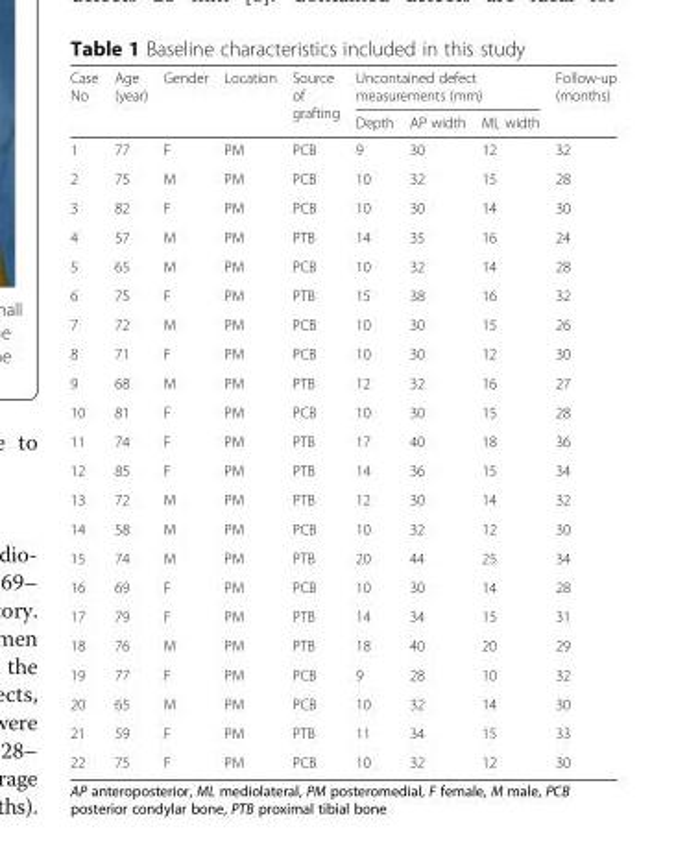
<table><thead><tr><td rowspan="2">Case No</td><td rowspan="2">Age (year)</td><td rowspan="2">Gender</td><td rowspan="2">Location</td><td rowspan="2">Source of grafting</td><td colspan="3">Uncontained defect measurements (mm)</td><td rowspan="2">Follow-up (months)</td></tr><tr><td>Depth</td><td>AP width</td><td>ML width</td></tr></thead><tbody><tr><td>1</td><td>77</td><td>F</td><td>PM</td><td>PCB</td><td>9</td><td>30</td><td>12</td><td>32</td></tr><tr><td>2</td><td>75</td><td>M</td><td>PM</td><td>PCB</td><td>10</td><td>32</td><td>15</td><td>28</td></tr><tr><td>3</td><td>82</td><td>F</td><td>PM</td><td>PCB</td><td>10</td><td>30</td><td>14</td><td>30</td></tr><tr><td>4</td><td>57</td><td>M</td><td>PM</td><td>PTB</td><td>14</td><td>35</td><td>16</td><td>24</td></tr><tr><td>5</td><td>65</td><td>M</td><td>PM</td><td>PCB</td><td>10</td><td>32</td><td>14</td><td>28</td></tr><tr><td>6</td><td>75</td><td>F</td><td>PM</td><td>PTB</td><td>15</td><td>38</td><td>16</td><td>32</td></tr><tr><td>7</td><td>72</td><td>M</td><td>PM</td><td>PCB</td><td>10</td><td>30</td><td>15</td><td>26</td></tr><tr><td>8</td><td>71</td><td>F</td><td>PM</td><td>PCB</td><td>10</td><td>30</td><td>12</td><td>30</td></tr><tr><td>9</td><td>68</td><td>M</td><td>PM</td><td>PTB</td><td>12</td><td>32</td><td>16</td><td>27</td></tr><tr><td>10</td><td>81</td><td>F</td><td>PM</td><td>PCB</td><td>10</td><td>30</td><td>15</td><td>28</td></tr><tr><td>11</td><td>74</td><td>F</td><td>PM</td><td>PTB</td><td>17</td><td>40</td><td>18</td><td>36</td></tr><tr><td>12</td><td>85</td><td>F</td><td>PM</td><td>PTB</td><td>14</td><td>36</td><td>15</td><td>34</td></tr><tr><td>13</td><td>72</td><td>M</td><td>PM</td><td>PTB</td><td>12</td><td>30</td><td>14</td><td>32</td></tr><tr><td>14</td><td>58</td><td>M</td><td>PM</td><td>PCB</td><td>10</td><td>32</td><td>12</td><td>30</td></tr><tr><td>15</td><td>74</td><td>M</td><td>PM</td><td>PTB</td><td>20</td><td>44</td><td>25</td><td>34</td></tr><tr><td>16</td><td>69</td><td>F</td><td>PM</td><td>PCB</td><td>10</td><td>30</td><td>14</td><td>28</td></tr><tr><td>17</td><td>79</td><td>F</td><td>PM</td><td>PTB</td><td>14</td><td>34</td><td>15</td><td>31</td></tr><tr><td>18</td><td>76</td><td>M</td><td>PM</td><td>PTB</td><td>18</td><td>40</td><td>20</td><td>29</td></tr><tr><td>19</td><td>77</td><td>F</td><td>PM</td><td>PCB</td><td>9</td><td>28</td><td>10</td><td>32</td></tr><tr><td>20</td><td>65</td><td>M</td><td>PM</td><td>PCB</td><td>10</td><td>32</td><td>14</td><td>30</td></tr><tr><td>21</td><td>59</td><td>F</td><td>PM</td><td>PTB</td><td>11</td><td>34</td><td>15</td><td>33</td></tr><tr><td>22</td><td>75</td><td>F</td><td>PM</td><td>PCB</td><td>10</td><td>32</td><td>12</td><td>30</td></tr></tbody></table>